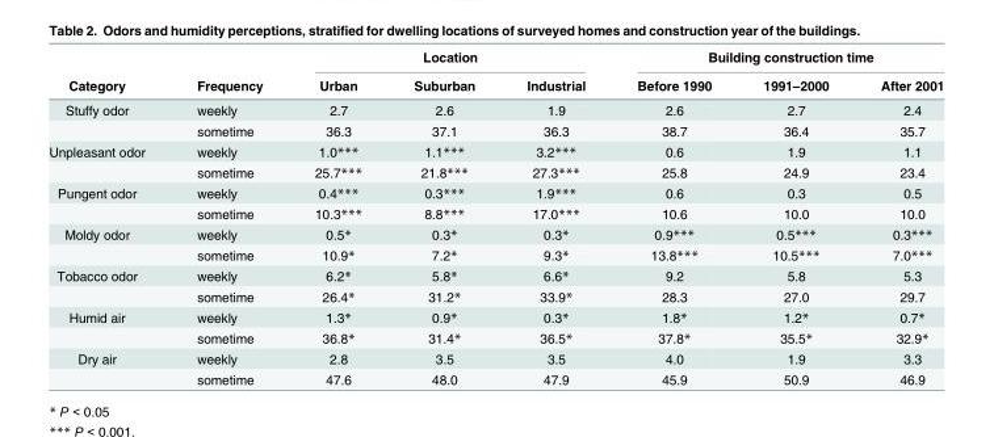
<table><thead><tr><td rowspan="2">Category</td><td rowspan="2">Frequency</td><td colspan="3">Location</td><td colspan="3">Building construction time</td></tr><tr><td>Urban</td><td>Suburban</td><td>Industrial</td><td>Before 1990</td><td>1991–2000</td><td>After 2001</td></tr></thead><tbody><tr><td rowspan="2">Stuffy odor</td><td>weekly</td><td>2.7</td><td>2.6</td><td>1.9</td><td>2.6</td><td>2.7</td><td>2.4</td></tr><tr><td>sometime</td><td>36.3</td><td>37.1</td><td>36.3</td><td>38.7</td><td>36.4</td><td>35.7</td></tr><tr><td rowspan="2">Unpleasant odor</td><td>weekly</td><td>1.0***</td><td>1.1***</td><td>3.2***</td><td>0.6</td><td>1.9</td><td>1.1</td></tr><tr><td>sometime</td><td>25.7***</td><td>21.8***</td><td>27.3***</td><td>25.8</td><td>24.9</td><td>23.4</td></tr><tr><td rowspan="2">Pungent odor</td><td>weekly</td><td>0.4***</td><td>0.3***</td><td>1.9***</td><td>0.6</td><td>0.3</td><td>0.5</td></tr><tr><td>sometime</td><td>10.3***</td><td>8.8***</td><td>17.0***</td><td>10.6</td><td>10.0</td><td>10.0</td></tr><tr><td rowspan="2">Moldy odor</td><td>weekly</td><td>0.5*</td><td>0.3*</td><td>0.3*</td><td>0.9***</td><td>0.5***</td><td>0.3***</td></tr><tr><td>sometime</td><td>10.9*</td><td>7.2*</td><td>9.3*</td><td>13.8***</td><td>10.5***</td><td>7.0***</td></tr><tr><td rowspan="2">Tobacco odor</td><td>weekly</td><td>6.2*</td><td>5.8*</td><td>6.6*</td><td>9.2</td><td>5.8</td><td>5.3</td></tr><tr><td>sometime</td><td>26.4*</td><td>31.2*</td><td>33.9*</td><td>28.3</td><td>27.0</td><td>29.7</td></tr><tr><td rowspan="2">Humid air</td><td>weekly</td><td>1.3*</td><td>0.9*</td><td>0.3*</td><td>1.8*</td><td>1.2*</td><td>0.7*</td></tr><tr><td>sometime</td><td>36.8*</td><td>31.4*</td><td>36.5*</td><td>37.8*</td><td>35.5*</td><td>32.9*</td></tr><tr><td rowspan="2">Dry air</td><td>weekly</td><td>2.8</td><td>3.5</td><td>3.5</td><td>4.0</td><td>1.9</td><td>3.3</td></tr><tr><td>sometime</td><td>47.6</td><td>48.0</td><td>47.9</td><td>45.9</td><td>50.9</td><td>46.9</td></tr></tbody></table>